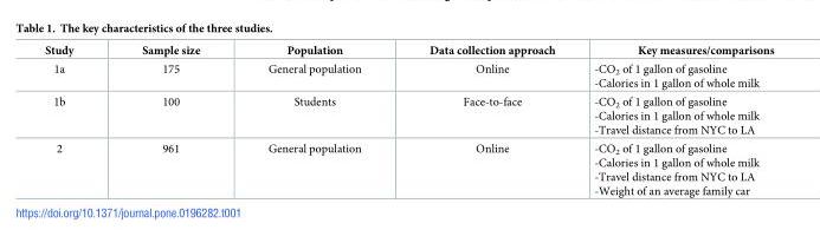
<table><thead><tr><td>Study</td><td>Sample size</td><td>Population</td><td>Data collection approach</td><td>Key measures/comparisons</td></tr></thead><tbody><tr><td>1a</td><td>175</td><td>General population</td><td>Online</td><td>-CO<sub>2</sub> of 1 gallon of gasoline -Calories in 1 gallon of whole milk</td></tr><tr><td>1b</td><td>100</td><td>Students</td><td>Face-to-face</td><td>-CO<sub>2</sub> of 1 gallon of gasoline -Calories in 1 gallon of whole milk -Travel distance from NYC to LA</td></tr><tr><td>2</td><td>961</td><td>General population</td><td>Online</td><td>-CO<sub>2</sub> of 1 gallon of gasoline -Calories in 1 gallon of whole milk -Travel distance from NYC to LA -Weight of an average family car</td></tr></tbody></table>